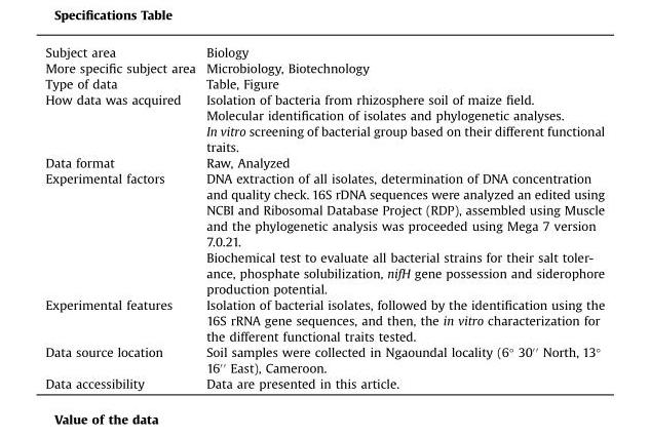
<table><tbody><tr><td>Subject area</td><td>Biology</td></tr><tr><td>More specific subject area</td><td>Microbiology, Biotechnology</td></tr><tr><td>Type of data</td><td>Table, Figure</td></tr><tr><td rowspan="3">How data was acquired</td><td>Isolation of bacteria from rhizosphere soil of maize field.</td></tr><tr><td>Molecular identification of isolates and phylogenetic analyses.</td></tr><tr><td>In vitro screening of bacterial group based on their different functional traits.</td></tr><tr><td>Data format</td><td>Raw, Analyzed</td></tr><tr><td rowspan="2">Experimental factors</td><td>DNA extraction of all isolates, determination of DNA concentration and quality check. 16S rDNA sequences were analyzed an edited using NCBI and Ribosomal Database Project (RDP), assembled using Muscle and the phylogenetic analysis was proceeded using Mega 7 version 7.0.21.</td></tr><tr><td>Biochemical test to evaluate all bacterial strains for their salt toler- ance, phosphate solubilization, nifH gene possession and siderophore production potential.</td></tr><tr><td>Experimental features</td><td>Isolation of bacterial isolates, followed by the identification using the 16S rRNA gene sequences, and then, the in vitro characterization for the different functional traits tested.</td></tr><tr><td>Data source location</td><td>Soil samples were collected in Ngaoundal locality (6° 30′′ North, 13° 16′′ East), Cameroon.</td></tr><tr><td>Data accessibility</td><td>Data are presented in this article.</td></tr></tbody></table>